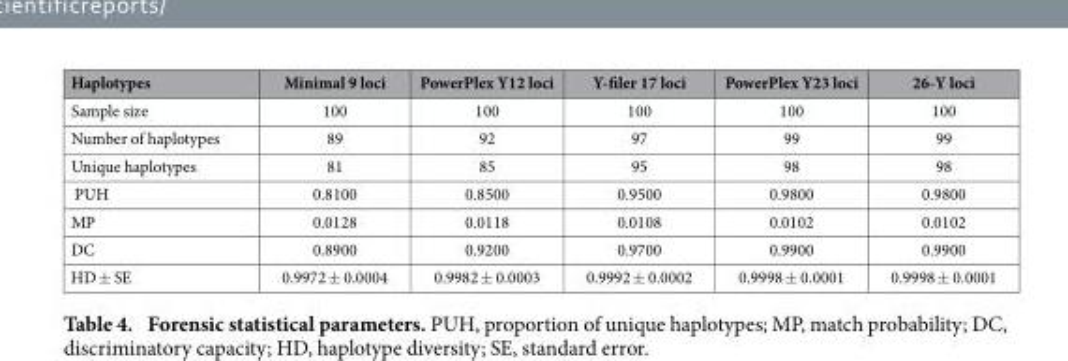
<table><thead><tr><td>Haplotypes</td><td>Minimal 9 loci</td><td>PowerPlex Y12 loci</td><td>Y-filer 17 loci</td><td>PowerPlex Y23 loci</td><td>26-Y loci</td></tr></thead><tbody><tr><td>Sample size</td><td>100</td><td>100</td><td>100</td><td>100</td><td>100</td></tr><tr><td>Number of haplotypes</td><td>89</td><td>92</td><td>97</td><td>99</td><td>99</td></tr><tr><td>Unique haplotypes</td><td>81</td><td>85</td><td>95</td><td>98</td><td>98</td></tr><tr><td>PUH</td><td>0.8100</td><td>0.8500</td><td>0.9500</td><td>0.9800</td><td>0.9800</td></tr><tr><td>MP</td><td>0.0128</td><td>0.0118</td><td>0.0108</td><td>0.0102</td><td>0.0102</td></tr><tr><td>DC</td><td>0.8900</td><td>0.9200</td><td>0.9700</td><td>0.9900</td><td>0.9900</td></tr><tr><td>HD ± SE</td><td>0.9972 ± 0.0004</td><td>0.9982 ± 0.0003</td><td>0.9992 ± 0.0002</td><td>0.9998 ± 0.0001</td><td>0.9998 ± 0.0001</td></tr></tbody></table>